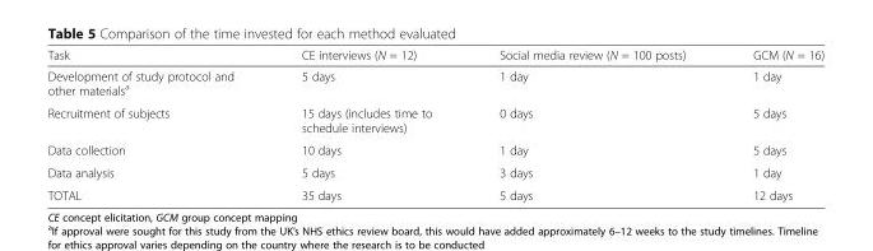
<table><thead><tr><td>Task</td><td>CE interviews (N = 12)</td><td>Social media review (N = 100 posts)</td><td>GCM (N = 16)</td></tr></thead><tbody><tr><td>Development of study protocol and other materials<sup>a</sup></td><td>5 days</td><td>1 day</td><td>1 day</td></tr><tr><td>Recruitment of subjects</td><td>15 days (includes time to schedule interviews)</td><td>0 days</td><td>5 days</td></tr><tr><td>Data collection</td><td>10 days</td><td>1 day</td><td>5 days</td></tr><tr><td>Data analysis</td><td>5 days</td><td>3 days</td><td>1 day</td></tr><tr><td>TOTAL</td><td>35 days</td><td>5 days</td><td>12 days</td></tr></tbody></table>